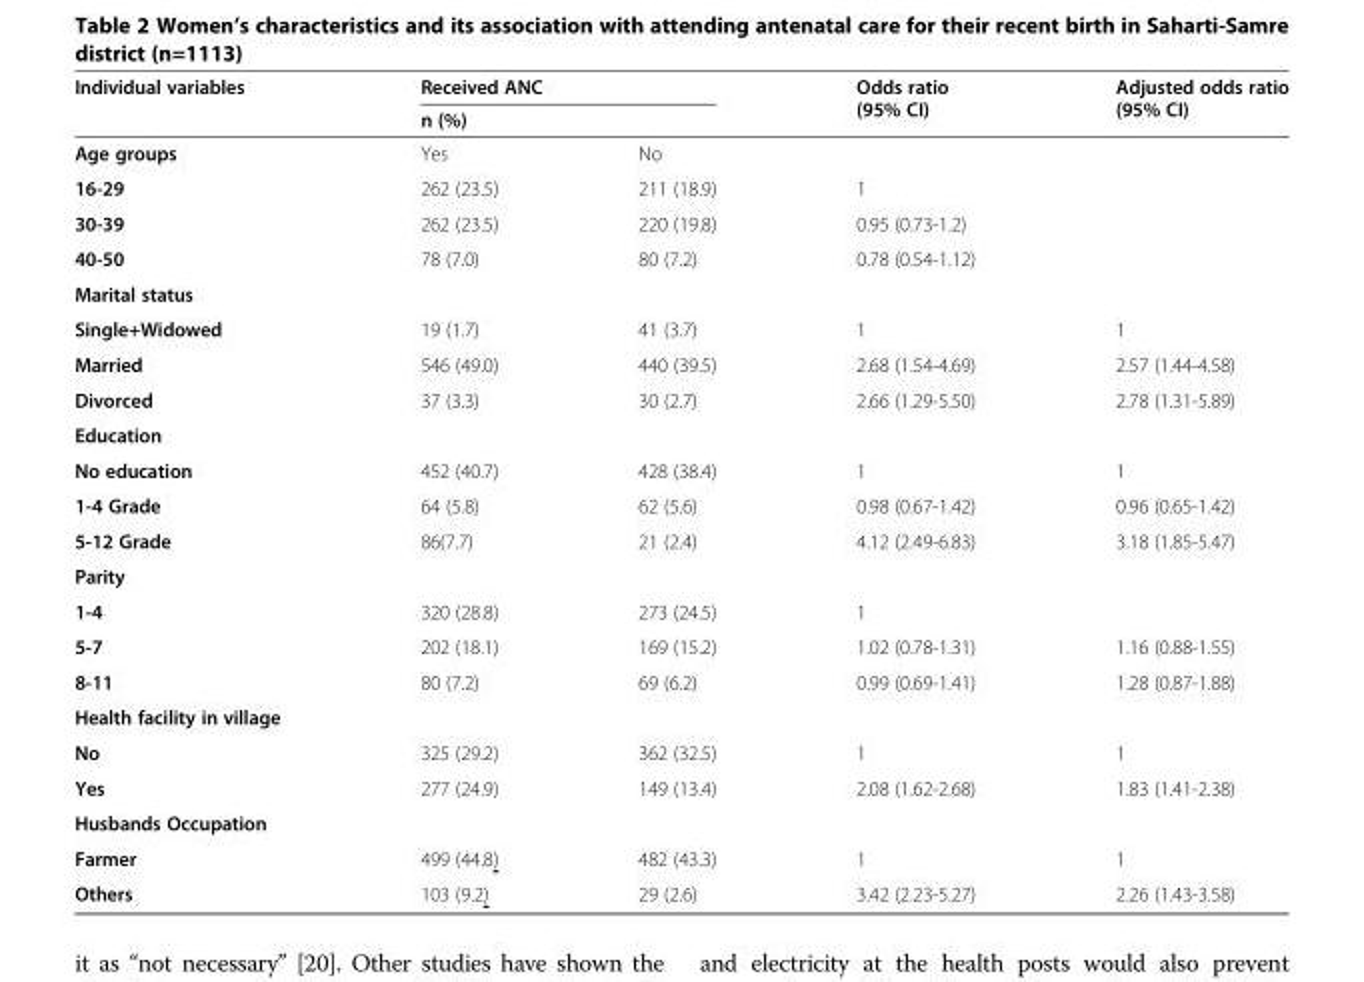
<table><thead><tr><td rowspan="2">Individual variables</td><td colspan="2">Received ANC</td><td rowspan="2">Odds ratio (95% CI)</td><td rowspan="2">Adjusted odds ratio (95% CI)</td></tr><tr><td>n (%)</td><td></td></tr></thead><tbody><tr><td>Age groups</td><td>Yes</td><td>No</td><td></td><td></td></tr><tr><td>16-29</td><td>262 (23.5)</td><td>211 (18.9)</td><td>1</td><td></td></tr><tr><td>30-39</td><td>262 (23.5)</td><td>220 (19.8)</td><td>0.95 (0.73-1.2)</td><td></td></tr><tr><td>40-50</td><td>78 (7.0)</td><td>80 (7.2)</td><td>0.78 (0.54-1.12)</td><td></td></tr><tr><td colspan="5">Marital status</td></tr><tr><td>Single+Widowed</td><td>19 (1.7)</td><td>41 (3.7)</td><td>1</td><td>1</td></tr><tr><td>Married</td><td>546 (49.0)</td><td>440 (39.5)</td><td>2.68 (1.54-4.69)</td><td>2.57 (1.44-4.58)</td></tr><tr><td>Divorced</td><td>37 (3.3)</td><td>30 (2.7)</td><td>2.66 (1.29-5.50)</td><td>2.78 (1.31-5.89)</td></tr><tr><td colspan="5">Education</td></tr><tr><td>No education</td><td>452 (40.7)</td><td>428 (38.4)</td><td>1</td><td>1</td></tr><tr><td>1-4 Grade</td><td>64 (5.8)</td><td>62 (5.6)</td><td>0.98 (0.67-1.42)</td><td>0.96 (0.65-1.42)</td></tr><tr><td>5-12 Grade</td><td>86(7.7)</td><td>21 (2.4)</td><td>4.12 (2.49-6.83)</td><td>3.18 (1.85-5.47)</td></tr><tr><td colspan="5">Parity</td></tr><tr><td>1-4</td><td>320 (28.8)</td><td>273 (24.5)</td><td>1</td><td></td></tr><tr><td>5-7</td><td>202 (18.1)</td><td>169 (15.2)</td><td>1.02 (0.78-1.31)</td><td>1.16 (0.88-1.55)</td></tr><tr><td>8-11</td><td>80 (7.2)</td><td>69 (6.2)</td><td>0.99 (0.69-1.41)</td><td>1.28 (0.87-1.88)</td></tr><tr><td colspan="5">Health facility in village</td></tr><tr><td>No</td><td>325 (29.2)</td><td>362 (32.5)</td><td>1</td><td>1</td></tr><tr><td>Yes</td><td>277 (24.9)</td><td>149 (13.4)</td><td>2.08 (1.62-2.68)</td><td>1.83 (1.41-2.38)</td></tr><tr><td colspan="5">Husbands Occupation</td></tr><tr><td>Farmer</td><td>499 (44.8)</td><td>482 (43.3)</td><td>1</td><td>1</td></tr><tr><td>Others</td><td>103 (9.2)</td><td>29 (2.6)</td><td>3.42 (2.23-5.27)</td><td>2.26 (1.43-3.58)</td></tr></tbody></table>